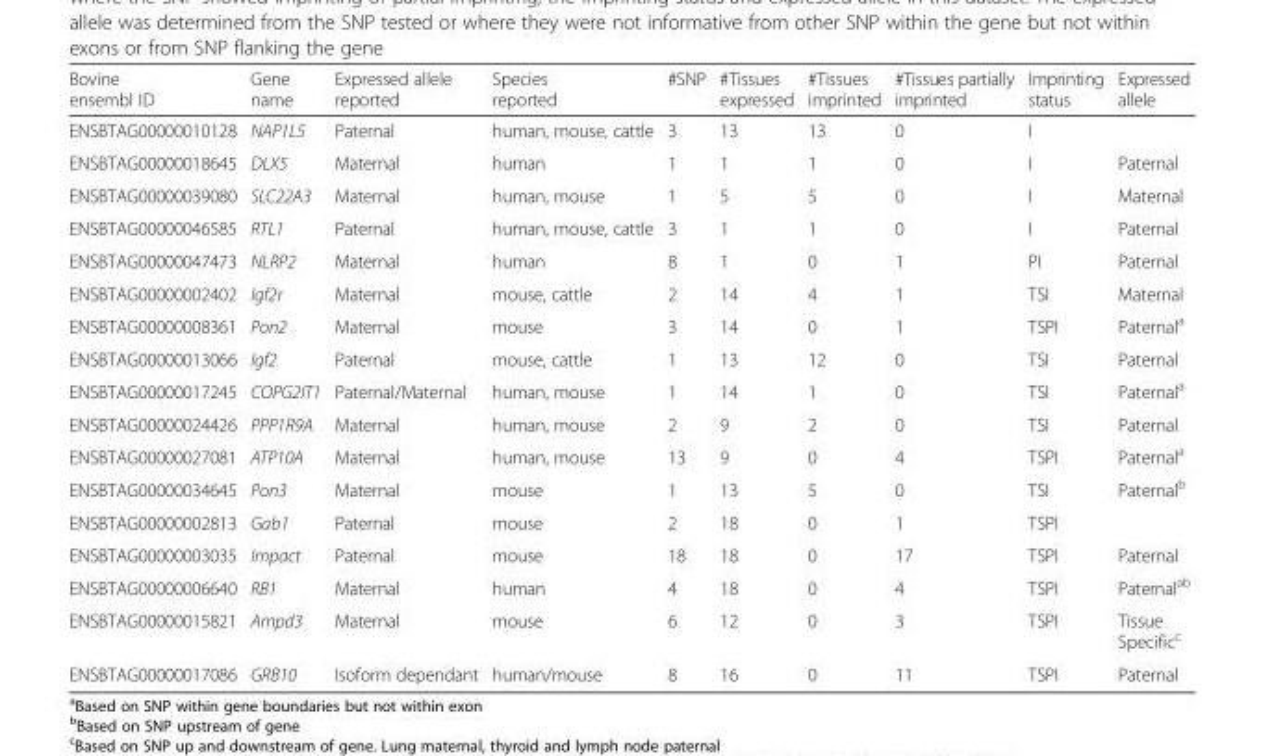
<table><thead><tr><td>Bovine ensembl ID</td><td>Gene name</td><td>Expressed allele reported</td><td>Species reported</td><td>#SNP</td><td>#Tissues expressed</td><td>#Tissues imprinted</td><td>#Tissues partially imprinted</td><td>Imprinting status</td><td>Expressed allele</td></tr></thead><tbody><tr><td>ENSBTAG00000010128</td><td>NAP1L5</td><td>Paternal</td><td>human, mouse, cattle</td><td>3</td><td>13</td><td>13</td><td>0</td><td>I</td><td></td></tr><tr><td>ENSBTAG00000018645</td><td>DLX5</td><td>Maternal</td><td>human</td><td>1</td><td>1</td><td>1</td><td>0</td><td>I</td><td>Paternal</td></tr><tr><td>ENSBTAG00000039080</td><td>SLC22A3</td><td>Maternal</td><td>human, mouse</td><td>1</td><td>5</td><td>5</td><td>0</td><td>I</td><td>Maternal</td></tr><tr><td>ENSBTAG00000046585</td><td>RTL1</td><td>Paternal</td><td>human, mouse, cattle</td><td>3</td><td>1</td><td>1</td><td>0</td><td>I</td><td>Paternal</td></tr><tr><td>ENSBTAG00000047473</td><td>NLRP2</td><td>Maternal</td><td>human</td><td>8</td><td>1</td><td>0</td><td>1</td><td>PI</td><td>Paternal</td></tr><tr><td>ENSBTAG00000002402</td><td>Igf2r</td><td>Maternal</td><td>mouse, cattle</td><td>2</td><td>14</td><td>4</td><td>1</td><td>TSI</td><td>Maternal</td></tr><tr><td>ENSBTAG00000008361</td><td>Pon2</td><td>Maternal</td><td>mouse</td><td>3</td><td>14</td><td>0</td><td>1</td><td>TSPI</td><td>Paternal<sup>a</sup></td></tr><tr><td>ENSBTAG00000013066</td><td>Igf2</td><td>Paternal</td><td>mouse, cattle</td><td>1</td><td>13</td><td>12</td><td>0</td><td>TSI</td><td>Paternal</td></tr><tr><td>ENSBTAG00000017245</td><td>COPG2IT1</td><td>Paternal/Maternal</td><td>human, mouse</td><td>1</td><td>14</td><td>1</td><td>0</td><td>TSI</td><td>Paternal<sup>a</sup></td></tr><tr><td>ENSBTAG00000024426</td><td>PPP1R9A</td><td>Maternal</td><td>human, mouse</td><td>2</td><td>9</td><td>2</td><td>0</td><td>TSI</td><td>Paternal</td></tr><tr><td>ENSBTAG00000027081</td><td>ATP10A</td><td>Maternal</td><td>human, mouse</td><td>13</td><td>9</td><td>0</td><td>4</td><td>TSPI</td><td>Paternal<sup>a</sup></td></tr><tr><td>ENSBTAG00000034645</td><td>Pon3</td><td>Maternal</td><td>mouse</td><td>1</td><td>13</td><td>5</td><td>0</td><td>TSI</td><td>Paternal<sup>b</sup></td></tr><tr><td>ENSBTAG00000002813</td><td>Gab1</td><td>Paternal</td><td>mouse</td><td>2</td><td>18</td><td>0</td><td>1</td><td>TSPI</td><td></td></tr><tr><td>ENSBTAG00000003035</td><td>Impact</td><td>Paternal</td><td>mouse</td><td>18</td><td>18</td><td>0</td><td>17</td><td>TSPI</td><td>Paternal</td></tr><tr><td>ENSBTAG00000006640</td><td>RB1</td><td>Maternal</td><td>human</td><td>4</td><td>18</td><td>0</td><td>4</td><td>TSPI</td><td>Paternal<sup>ab</sup></td></tr><tr><td>ENSBTAG00000015821</td><td>Ampd3</td><td>Maternal</td><td>mouse</td><td>6</td><td>12</td><td>0</td><td>3</td><td>TSPI</td><td>Tissue Specific<sup>c</sup></td></tr><tr><td>ENSBTAG00000017086</td><td>GRB10</td><td>Isoform dependant</td><td>human/mouse</td><td>8</td><td>16</td><td>0</td><td>11</td><td>TSPI</td><td>Paternal</td></tr></tbody></table>